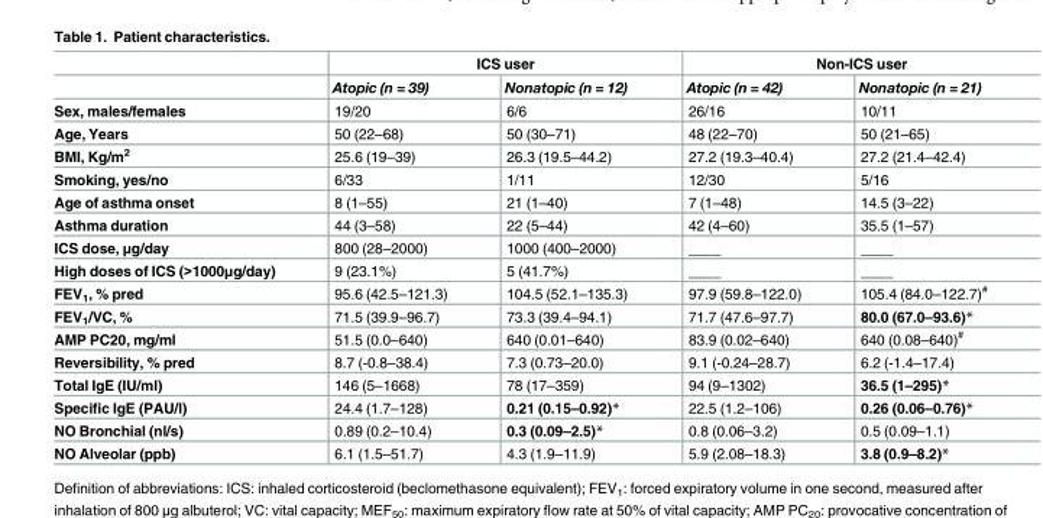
<table><thead><tr><td rowspan="2"></td><td colspan="2">ICS user</td><td colspan="2">Non-ICS user</td></tr><tr><td>Atopic (n = 39)</td><td>Nonatopic (n = 12)</td><td>Atopic (n = 42)</td><td>Nonatopic (n = 21)</td></tr></thead><tbody><tr><td>Sex, males/females</td><td>19/20</td><td>6/6</td><td>26/16</td><td>10/11</td></tr><tr><td>Age, Years</td><td>50 (22–68)</td><td>50 (30–71)</td><td>48 (22–70)</td><td>50 (21–65)</td></tr><tr><td>BMI, Kg/m<sup>2</sup></td><td>25.6 (19–39)</td><td>26.3 (19.5–44.2)</td><td>27.2 (19.3–40.4)</td><td>27.2 (21.4–42.4)</td></tr><tr><td>Smoking, yes/no</td><td>6/33</td><td>1/11</td><td>12/30</td><td>5/16</td></tr><tr><td>Age of asthma onset</td><td>8 (1–55)</td><td>21 (1–40)</td><td>7 (1–48)</td><td>14.5 (3–22)</td></tr><tr><td>Asthma duration</td><td>44 (3–58)</td><td>22 (5–44)</td><td>42 (4–60)</td><td>35.5 (1–57)</td></tr><tr><td>ICS dose, μg/day</td><td>800 (28–2000)</td><td>1000 (400–2000)</td><td>____</td><td>____</td></tr><tr><td>High doses of ICS (&gt;1000μg/day)</td><td>9 (23.1%)</td><td>5 (41.7%)</td><td>____</td><td>____</td></tr><tr><td>FEV<sub>1</sub>, % pred</td><td>95.6 (42.5–121.3)</td><td>104.5 (52.1–135.3)</td><td>97.9 (59.8–122.0)</td><td>105.4 (84.0–122.7)<sup>#</sup></td></tr><tr><td>FEV<sub>1</sub>/VC, %</td><td>71.5 (39.9–96.7)</td><td>73.3 (39.4–94.1)</td><td>71.7 (47.6–97.7)</td><td>80.0 (67.0–93.6)*</td></tr><tr><td>AMP PC20, mg/ml</td><td>51.5 (0.0–640)</td><td>640 (0.01–640)</td><td>83.9 (0.02–640)</td><td>640 (0.08–640)<sup>#</sup></td></tr><tr><td>Reversibility, % pred</td><td>8.7 (-0.8–38.4)</td><td>7.3 (0.73–20.0)</td><td>9.1 (-0.24–28.7)</td><td>6.2 (-1.4–17.4)</td></tr><tr><td>Total IgE (IU/ml)</td><td>146 (5–1668)</td><td>78 (17–359)</td><td>94 (9–1302)</td><td>36.5 (1–295)*</td></tr><tr><td>Specific IgE (PAU/l)</td><td>24.4 (1.7–128)</td><td>0.21 (0.15–0.92)*</td><td>22.5 (1.2–106)</td><td>0.26 (0.06–0.76)*</td></tr><tr><td>NO Bronchial (nl/s)</td><td>0.89 (0.2–10.4)</td><td>0.3 (0.09–2.5)*</td><td>0.8 (0.06–3.2)</td><td>0.5 (0.09–1.1)</td></tr><tr><td>NO Alveolar (ppb)</td><td>6.1 (1.5–51.7)</td><td>4.3 (1.9–11.9)</td><td>5.9 (2.08–18.3)</td><td>3.8 (0.9–8.2)*</td></tr></tbody></table>